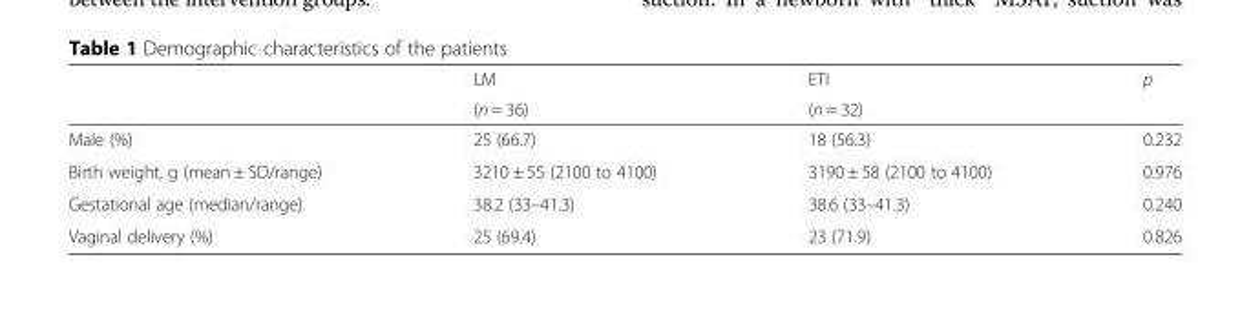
<table><thead><tr><td rowspan="2"></td><td rowspan="2">LM (n = 36)</td><td rowspan="2">ETI (n = 32)</td><td rowspan="2">p</td></tr><tr></tr></thead><tbody><tr><td>Male (%)</td><td>25 (66.7)</td><td>18 (56.3)</td><td>0.232</td></tr><tr><td>Birth weight, g (mean ± SD/range)</td><td>3210 ± 55 (2100 to 4100)</td><td>3190 ± 58 (2100 to 4100)</td><td>0.976</td></tr><tr><td>Gestational age (median/range)</td><td>38.2 (33–41.3)</td><td>38.6 (33–41.3)</td><td>0.240</td></tr><tr><td>Vaginal delivery (%)</td><td>25 (69.4)</td><td>23 (71.9)</td><td>0.826</td></tr></tbody></table>